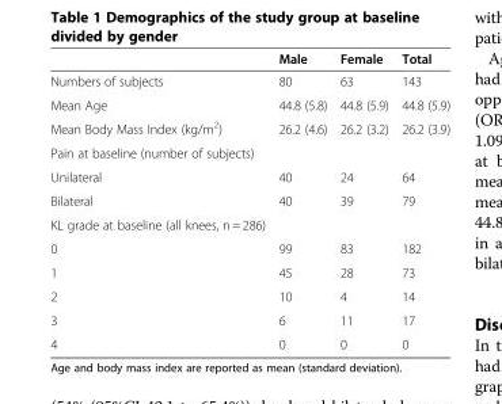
<table><thead><tr><td></td><td>Male</td><td>Female</td><td>Total</td></tr></thead><tbody><tr><td>Numbers of subjects</td><td>80</td><td>63</td><td>143</td></tr><tr><td>Mean Age</td><td>44.8 (5.8)</td><td>44.8 (5.9)</td><td>44.8 (5.9)</td></tr><tr><td>Mean Body Mass Index (kg/m<sup>2</sup>)</td><td>26.2 (4.6)</td><td>26.2 (3.2)</td><td>26.2 (3.9)</td></tr><tr><td colspan="4">Pain at baseline (number of subjects)</td></tr><tr><td>Unilateral</td><td>40</td><td>24</td><td>64</td></tr><tr><td>Bilateral</td><td>40</td><td>39</td><td>79</td></tr><tr><td colspan="4">KL grade at baseline (all knees, n = 286)</td></tr><tr><td>0</td><td>99</td><td>83</td><td>182</td></tr><tr><td>1</td><td>45</td><td>28</td><td>73</td></tr><tr><td>2</td><td>10</td><td>4</td><td>14</td></tr><tr><td>3</td><td>6</td><td>11</td><td>17</td></tr><tr><td>4</td><td>0</td><td>0</td><td>0</td></tr></tbody></table>